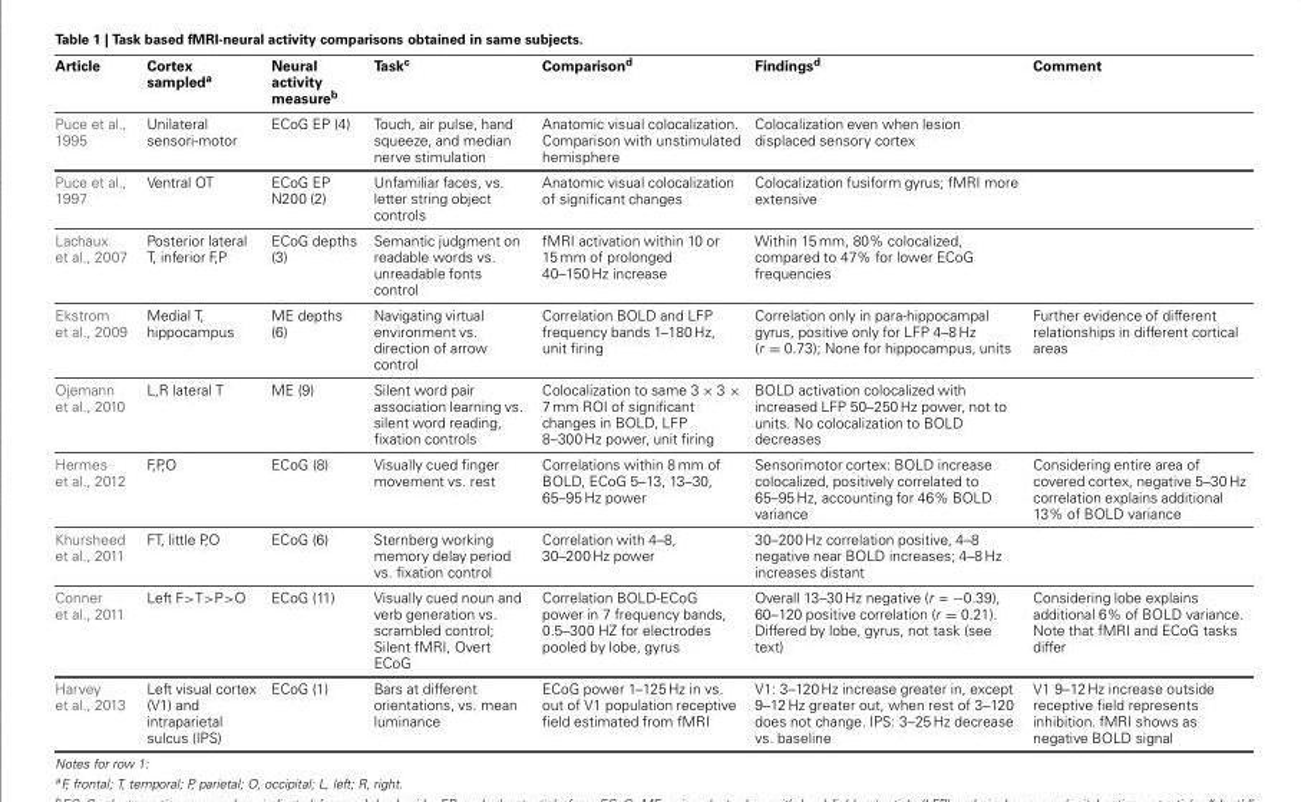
<table><thead><tr><td>Article</td><td>Cortex sampled<sup>a</sup></td><td>Neural activity measure<sup>b</sup></td><td>Task<sup>c</sup></td><td>Comparison<sup>d</sup></td><td>Findings<sup>d</sup></td><td>Comment</td></tr></thead><tbody><tr><td>Puce et al., 1995</td><td>Unilateral sensori-motor</td><td>ECoG EP (4)</td><td>Touch, air pulse, hand squeeze, and median nerve stimulation</td><td>Anatomic visual colocalization. Comparison with unstimulated hemisphere</td><td>Colocalization even when lesion displaced sensory cortex</td><td></td></tr><tr><td>Puce et al., 1997</td><td>Ventral OT</td><td>ECoG EP N200 (2)</td><td>Unfamiliar faces, vs. letter string object controls</td><td>Anatomic visual colocalization of significant changes</td><td>Colocalization fusiform gyrus; fMRI more extensive</td><td></td></tr><tr><td>Lachaux et al., 2007</td><td>Posterior lateral T, inferior F,P</td><td>ECoG depths (3)</td><td>Semantic judgment on readable words vs. unreadable fonts control</td><td>fMRI activation within 10 or 15 mm of prolonged 40–150Hz increase</td><td>Within 15 mm, 80% colocalized, compared to 47% for lower ECoG frequencies</td><td></td></tr><tr><td>Ekstrom et al., 2009</td><td>Medial T, hippocampus</td><td>ME depths (6)</td><td>Navigating virtual environment vs. direction of arrow control</td><td>Correlation BOLD and LFP frequency bands 1–180Hz, unit firing</td><td>Correlation only in para-hippocampal gyrus, positive only for LFP 4–8 Hz (r = 0.73); None for hippocampus, units</td><td>Further evidence of different relationships in different cortical areas</td></tr><tr><td>Ojemann et al., 2010</td><td>L,R lateral T</td><td>ME (9)</td><td>Silent word pair association learning vs. silent word reading, fixation controls</td><td>Colocalization to same 3 × 3 × 7 mm ROI of significant changes in BOLD, LFP 8–300Hz power, unit firing</td><td>BOLD activation colocalized with increased LFP 50–250Hz power, not to units. No colocalization to BOLD decreases</td><td></td></tr><tr><td>Hermes et al., 2012</td><td>F,P,O</td><td>ECoG (8)</td><td>Visually cued finger movement vs. rest</td><td>Correlations within 8 mm of BOLD, ECoG 5–13, 13–30, 65–95Hz power</td><td>Sensorimotor cortex: BOLD increase colocalized, positively correlated to 65–95 Hz, accounting for 46% BOLD variance</td><td>Considering entire area of covered cortex, negative 5–30 Hz correlation explains additional 13% of BOLD variance</td></tr><tr><td>Khursheed et al., 2011</td><td>FT, little P,O</td><td>ECoG (6)</td><td>Sternberg working memory delay period vs. fixation control</td><td>Correlation with 4–8, 30–200Hz power</td><td>30–200Hz correlation positive, 4–8 negative near BOLD increases; 4–8 Hz increases distant</td><td></td></tr><tr><td>Conner et al., 2011</td><td>Left F&gt;T&gt;P&gt;O</td><td>ECoG (11)</td><td>Visually cued noun and verb generation vs. scrambled control; Silent fMRI, Overt ECoG</td><td>Correlation BOLD-ECoG power in 7 frequency bands, 0.5–300 HZ for electrodes pooled by lobe, gyrus</td><td>Overall 13–30Hz negative (r = −0.39), 60–120 positive correlation (r = 0.21). Differed by lobe, gyrus, not task (see text)</td><td>Considering lobe explains additional 6% of BOLD variance. Note that fMRI and ECoG tasks differ</td></tr><tr><td>Harvey et al., 2013</td><td>Left visual cortex (V1) and intraparietal sulcus (IPS)</td><td>ECoG (1)</td><td>Bars at different orientations, vs. mean luminance</td><td>ECoG power 1–125Hz in vs. out of V1 population receptive field estimated from fMRI</td><td>V1: 3–120Hz increase greater in, except 9–12 Hz greater out, when rest of 3–120 does not change. IPS: 3–25Hz decrease vs. baseline</td><td>V1 9–12Hz increase outside receptive field represents inhibition. fMRI shows as negative BOLD signal</td></tr></tbody></table>